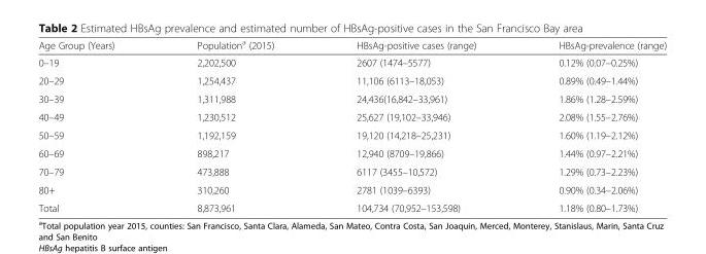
<table><thead><tr><td>Age Group (Years)</td><td>Population<sup>a</sup> (2015)</td><td>HBsAg-positive cases (range)</td><td>HBsAg-prevalence (range)</td></tr></thead><tbody><tr><td>0–19</td><td>2,202,500</td><td>2607 (1474–5577)</td><td>0.12% (0.07–0.25%)</td></tr><tr><td>20–29</td><td>1,254,437</td><td>11,106 (6113–18,053)</td><td>0.89% (0.49–1.44%)</td></tr><tr><td>30–39</td><td>1,311,988</td><td>24,436(16,842–33,961)</td><td>1.86% (1.28–2.59%)</td></tr><tr><td>40–49</td><td>1,230,512</td><td>25,627 (19,102–33,946)</td><td>2.08% (1.55–2.76%)</td></tr><tr><td>50–59</td><td>1,192,159</td><td>19,120 (14,218–25,231)</td><td>1.60% (1.19–2.12%)</td></tr><tr><td>60–69</td><td>898,217</td><td>12,940 (8709–19,866)</td><td>1.44% (0.97–2.21%)</td></tr><tr><td>70–79</td><td>473,888</td><td>6117 (3455–10,572)</td><td>1.29% (0.73–2.23%)</td></tr><tr><td>80+</td><td>310,260</td><td>2781 (1039–6393)</td><td>0.90% (0.34–2.06%)</td></tr><tr><td>Total</td><td>8,873,961</td><td>104,734 (70,952–153,598)</td><td>1.18% (0.80–1.73%)</td></tr></tbody></table>